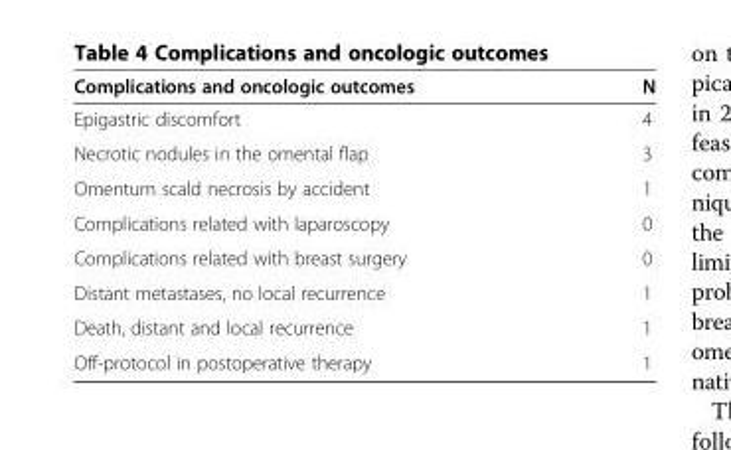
<table><thead><tr><td>Complications and oncologic outcomes</td><td>N</td></tr></thead><tbody><tr><td>Epigastric discomfort</td><td>4</td></tr><tr><td>Necrotic nodules in the omental flap</td><td>3</td></tr><tr><td>Omentum scald necrosis by accident</td><td>1</td></tr><tr><td>Complications related with laparoscopy</td><td>0</td></tr><tr><td>Complications related with breast surgery</td><td>0</td></tr><tr><td>Distant metastases, no local recurrence</td><td>1</td></tr><tr><td>Death, distant and local recurrence</td><td>1</td></tr><tr><td>Off-protocol in postoperative therapy</td><td>1</td></tr></tbody></table>